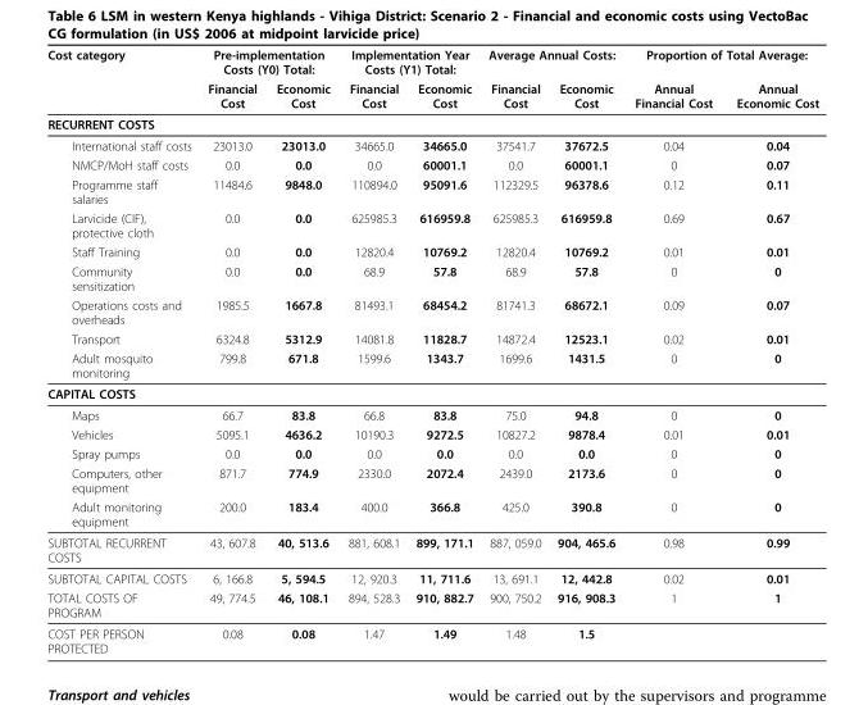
<table><thead><tr><td rowspan="2">Cost category</td><td colspan="2">Pre-implementation Costs (Y0) Total:</td><td colspan="2">Implementation Year Costs (Y1) Total:</td><td colspan="2">Average Annual Costs:</td><td colspan="2">Proportion of Total Average:</td></tr><tr><td>Financial Cost</td><td>Economic Cost</td><td>Financial Cost</td><td>Economic Cost</td><td>Financial Cost</td><td>Economic Cost</td><td>Annual Financial Cost</td><td>Annual Economic Cost</td></tr></thead><tbody><tr><td colspan="9">RECURRENT COSTS</td></tr><tr><td>International staff costs</td><td>23013.0</td><td>23013.0</td><td>34665.0</td><td>34665.0</td><td>37541.7</td><td>37672.5</td><td>0.04</td><td>0.04</td></tr><tr><td>NMCP/MoH staff costs</td><td>0.0</td><td>0.0</td><td>0.0</td><td>60001.1</td><td>0.0</td><td>60001.1</td><td>0</td><td>0.07</td></tr><tr><td>Programme staff salaries</td><td>11484.6</td><td>9848.0</td><td>110894.0</td><td>95091.6</td><td>112329.5</td><td>96378.6</td><td>0.12</td><td>0.11</td></tr><tr><td>Larvicide (CIF), protective cloth</td><td>0.0</td><td>0.0</td><td>625985.3</td><td>616959.8</td><td>625985.3</td><td>616959.8</td><td>0.69</td><td>0.67</td></tr><tr><td>Staff Training</td><td>0.0</td><td>0.0</td><td>12820.4</td><td>10769.2</td><td>12820.4</td><td>10769.2</td><td>0.01</td><td>0.01</td></tr><tr><td>Community sensitization</td><td>0.0</td><td>0.0</td><td>68.9</td><td>57.8</td><td>68.9</td><td>57.8</td><td>0</td><td>0</td></tr><tr><td>Operations costs and overheads</td><td>1985.5</td><td>1667.8</td><td>81493.1</td><td>68454.2</td><td>81741.3</td><td>68672.1</td><td>0.09</td><td>0.07</td></tr><tr><td>Transport</td><td>6324.8</td><td>5312.9</td><td>14081.8</td><td>11828.7</td><td>14872.4</td><td>12523.1</td><td>0.02</td><td>0.01</td></tr><tr><td>Adult mosquito monitoring</td><td>799.8</td><td>671.8</td><td>1599.6</td><td>1343.7</td><td>1699.6</td><td>1431.5</td><td>0</td><td>0</td></tr><tr><td colspan="9">CAPITAL COSTS</td></tr><tr><td>Maps</td><td>66.7</td><td>83.8</td><td>66.8</td><td>83.8</td><td>75.0</td><td>94.8</td><td>0</td><td>0</td></tr><tr><td>Vehicles</td><td>5095.1</td><td>4636.2</td><td>10190.3</td><td>9272.5</td><td>10827.2</td><td>9878.4</td><td>0.01</td><td>0.01</td></tr><tr><td>Spray pumps</td><td>0.0</td><td>0.0</td><td>0.0</td><td>0.0</td><td>0.0</td><td>0.0</td><td>0</td><td>0</td></tr><tr><td>Computers, other equipment</td><td>871.7</td><td>774.9</td><td>2330.0</td><td>2072.4</td><td>2439.0</td><td>2173.6</td><td>0</td><td>0</td></tr><tr><td>Adult monitoring equipment</td><td>200.0</td><td>183.4</td><td>400.0</td><td>366.8</td><td>425.0</td><td>390.8</td><td>0</td><td>0</td></tr><tr><td>SUBTOTAL RECURRENT COSTS</td><td>43, 607.8</td><td>40, 513.6</td><td>881, 608.1</td><td>899, 171.1</td><td>887, 059.0</td><td>904, 465.6</td><td>0.98</td><td>0.99</td></tr><tr><td>SUBTOTAL CAPITAL COSTS</td><td>6, 166.8</td><td>5, 594.5</td><td>12, 920.3</td><td>11, 711.6</td><td>13, 691.1</td><td>12, 442.8</td><td>0.02</td><td>0.01</td></tr><tr><td>TOTAL COSTS OF PROGRAM</td><td>49, 774.5</td><td>46, 108.1</td><td>894, 528.3</td><td>910, 882.7</td><td>900, 750.2</td><td>916, 908.3</td><td>1</td><td>1</td></tr><tr><td>COST PER PERSON PROTECTED</td><td>0.08</td><td>0.08</td><td>1.47</td><td>1.49</td><td>1.48</td><td>1.5</td><td></td><td></td></tr></tbody></table>